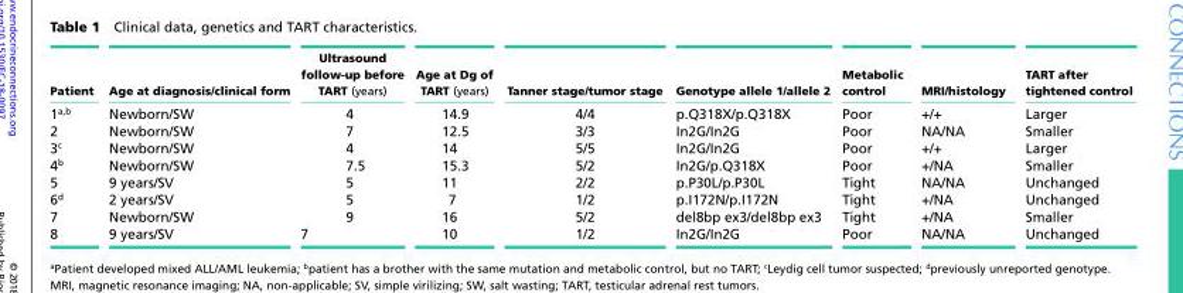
<table><thead><tr><td>Patient</td><td>Age at diagnosis/clinical form</td><td>Ultrasound follow-up before TART (years)</td><td>Age at Dg of TART (years)</td><td>Tanner stage/tumor stage</td><td>Genotype allele 1/allele 2</td><td>Metabolic control</td><td>MRI/histology</td><td>TART after tightened control</td></tr></thead><tbody><tr><td>1<sup>a,b</sup></td><td>Newborn/SW</td><td>4</td><td>14.9</td><td>4/4</td><td>p.Q318X/p.Q318X</td><td>Poor</td><td>+/+</td><td>Larger</td></tr><tr><td>2</td><td>Newborn/SW</td><td>7</td><td>12.5</td><td>3/3</td><td>In2G/In2G</td><td>Poor</td><td>NA/NA</td><td>Smaller</td></tr><tr><td>3<sup>c</sup></td><td>Newborn/SW</td><td>4</td><td>14</td><td>5/5</td><td>In2G/In2G</td><td>Poor</td><td>+/+</td><td>Larger</td></tr><tr><td>4<sup>b</sup></td><td>Newborn/SW</td><td>7.5</td><td>15.3</td><td>5/2</td><td>In2G/p.Q318X</td><td>Poor</td><td>+/NA</td><td>Smaller</td></tr><tr><td>5</td><td>9 years/SV</td><td>5</td><td>11</td><td>2/2</td><td>p.P30L/p.P30L</td><td>Tight</td><td>NA/NA</td><td>Unchanged</td></tr><tr><td>6<sup>d</sup></td><td>2 years/SV</td><td>5</td><td>7</td><td>1/2</td><td>p.I172N/p.I172N</td><td>Tight</td><td>+/NA</td><td>Unchanged</td></tr><tr><td>7</td><td>Newborn/SW</td><td>9</td><td>16</td><td>5/2</td><td>del8bp ex3/del8bp ex3</td><td>Tight</td><td>+/NA</td><td>Smaller</td></tr><tr><td>8</td><td>9 years/SV</td><td>7</td><td>10</td><td>1/2</td><td>In2G/In2G</td><td>Poor</td><td>NA/NA</td><td>Unchanged</td></tr></tbody></table>